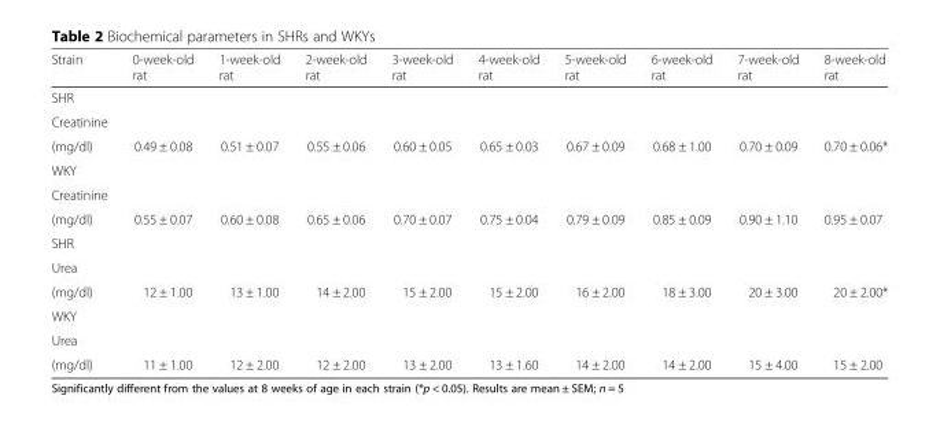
<table><thead><tr><td>Strain</td><td>0-week-old rat</td><td>1-week-old rat</td><td>2-week-old rat</td><td>3-week-old rat</td><td>4-week-old rat</td><td>5-week-old rat</td><td>6-week-old rat</td><td>7-week-old rat</td><td>8-week-old rat</td></tr></thead><tbody><tr><td colspan="10">SHR</td></tr><tr><td colspan="10">Creatinine</td></tr><tr><td>(mg/dl)</td><td>0.49 ± 0.08</td><td>0.51 ± 0.07</td><td>0.55 ± 0.06</td><td>0.60 ± 0.05</td><td>0.65 ± 0.03</td><td>0.67 ± 0.09</td><td>0.68 ± 1.00</td><td>0.70 ± 0.09</td><td>0.70 ± 0.06*</td></tr><tr><td colspan="10">WKY</td></tr><tr><td colspan="10">Creatinine</td></tr><tr><td>(mg/dl)</td><td>0.55 ± 0.07</td><td>0.60 ± 0.08</td><td>0.65 ± 0.06</td><td>0.70 ± 0.07</td><td>0.75 ± 0.04</td><td>0.79 ± 0.09</td><td>0.85 ± 0.09</td><td>0.90 ± 1.10</td><td>0.95 ± 0.07</td></tr><tr><td colspan="10">SHR</td></tr><tr><td colspan="10">Urea</td></tr><tr><td>(mg/dl)</td><td>12 ± 1.00</td><td>13 ± 1.00</td><td>14 ± 2.00</td><td>15 ± 2.00</td><td>15 ± 2.00</td><td>16 ± 2.00</td><td>18 ± 3.00</td><td>20 ± 3.00</td><td>20 ± 2.00*</td></tr><tr><td colspan="10">WKY</td></tr><tr><td colspan="10">Urea</td></tr><tr><td>(mg/dl)</td><td>11 ± 1.00</td><td>12 ± 2.00</td><td>12 ± 2.00</td><td>13 ± 2.00</td><td>13 ± 1.60</td><td>14 ± 2.00</td><td>14 ± 2.00</td><td>15 ± 4.00</td><td>15 ± 2.00</td></tr></tbody></table>